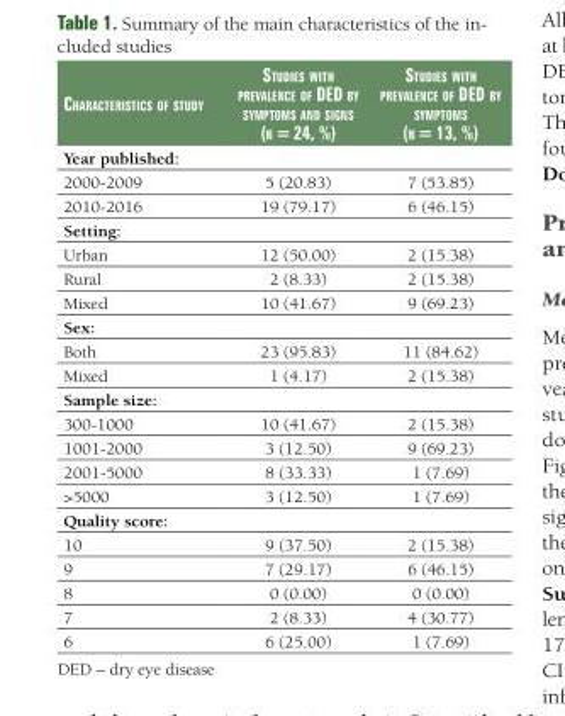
<table><thead><tr><td>CharaCteristiCs of study</td><td>studies with prevalenCe of ded by symptoms and signs (n = 24, %)</td><td>studies with prevalenCe of ded by symptoms (n = 13, %)</td></tr></thead><tbody><tr><td colspan="3">Year published:</td></tr><tr><td>2000-2009</td><td>5 (20.83)</td><td>7 (53.85)</td></tr><tr><td>2010-2016</td><td>19 (79.17)</td><td>6 (46.15)</td></tr><tr><td colspan="3">Setting:</td></tr><tr><td>Urban</td><td>12 (50.00)</td><td>2 (15.38)</td></tr><tr><td>Rural</td><td>2 (8.33)</td><td>2 (15.38)</td></tr><tr><td>Mixed</td><td>10 (41.67)</td><td>9 (69.23)</td></tr><tr><td colspan="3">Sex:</td></tr><tr><td>Both</td><td>23 (95.83)</td><td>11 (84.62)</td></tr><tr><td>Mixed</td><td>1 (4.17)</td><td>2 (15.38)</td></tr><tr><td colspan="3">Sample size:</td></tr><tr><td>300-1000</td><td>10 (41.67)</td><td>2 (15.38)</td></tr><tr><td>1001-2000</td><td>3 (12.50)</td><td>9 (69.23)</td></tr><tr><td>2001-5000</td><td>8 (33.33)</td><td>1 (7.69)</td></tr><tr><td>&gt;5000</td><td>3 (12.50)</td><td>1 (7.69)</td></tr><tr><td colspan="3">Quality score:</td></tr><tr><td>10</td><td>9 (37.50)</td><td>2 (15.38)</td></tr><tr><td>9</td><td>7 (29.17)</td><td>6 (46.15)</td></tr><tr><td>8</td><td>0 (0.00)</td><td>0 (0.00)</td></tr><tr><td>7</td><td>2 (8.33)</td><td>4 (30.77)</td></tr><tr><td>6</td><td>6 (25.00)</td><td>1 (7.69)</td></tr></tbody></table>